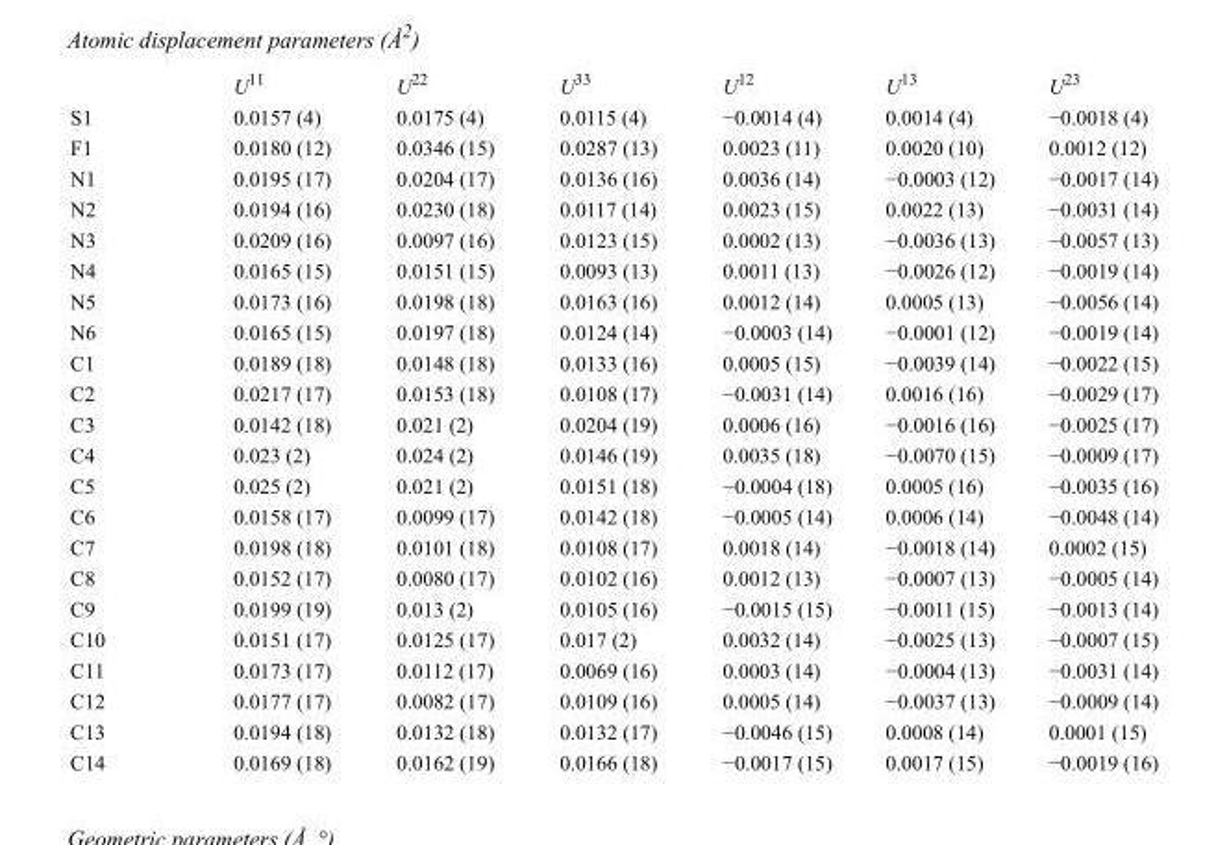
<table><thead><tr><td></td><td>U<sup>11</sup></td><td>U<sup>22</sup></td><td>U<sup>33</sup></td><td>U<sup>12</sup></td><td>U<sup>13</sup></td><td>U<sup>23</sup></td></tr></thead><tbody><tr><td>S1</td><td>0.0157 (4)</td><td>0.0175 (4)</td><td>0.0115 (4)</td><td>−0.0014 (4)</td><td>0.0014 (4)</td><td>−0.0018 (4)</td></tr><tr><td>F1</td><td>0.0180 (12)</td><td>0.0346 (15)</td><td>0.0287 (13)</td><td>0.0023 (11)</td><td>0.0020 (10)</td><td>0.0012 (12)</td></tr><tr><td>N1</td><td>0.0195 (17)</td><td>0.0204 (17)</td><td>0.0136 (16)</td><td>0.0036 (14)</td><td>−0.0003 (12)</td><td>−0.0017 (14)</td></tr><tr><td>N2</td><td>0.0194 (16)</td><td>0.0230 (18)</td><td>0.0117 (14)</td><td>0.0023 (15)</td><td>0.0022 (13)</td><td>−0.0031 (14)</td></tr><tr><td>N3</td><td>0.0209 (16)</td><td>0.0097 (16)</td><td>0.0123 (15)</td><td>0.0002 (13)</td><td>−0.0036 (13)</td><td>−0.0057 (13)</td></tr><tr><td>N4</td><td>0.0165 (15)</td><td>0.0151 (15)</td><td>0.0093 (13)</td><td>0.0011 (13)</td><td>−0.0026 (12)</td><td>−0.0019 (14)</td></tr><tr><td>N5</td><td>0.0173 (16)</td><td>0.0198 (18)</td><td>0.0163 (16)</td><td>0.0012 (14)</td><td>0.0005 (13)</td><td>−0.0056 (14)</td></tr><tr><td>N6</td><td>0.0165 (15)</td><td>0.0197 (18)</td><td>0.0124 (14)</td><td>−0.0003 (14)</td><td>−0.0001 (12)</td><td>−0.0019 (14)</td></tr><tr><td>C1</td><td>0.0189 (18)</td><td>0.0148 (18)</td><td>0.0133 (16)</td><td>0.0005 (15)</td><td>−0.0039 (14)</td><td>−0.0022 (15)</td></tr><tr><td>C2</td><td>0.0217 (17)</td><td>0.0153 (18)</td><td>0.0108 (17)</td><td>−0.0031 (14)</td><td>0.0016 (16)</td><td>−0.0029 (17)</td></tr><tr><td>C3</td><td>0.0142 (18)</td><td>0.021 (2)</td><td>0.0204 (19)</td><td>0.0006 (16)</td><td>−0.0016 (16)</td><td>−0.0025 (17)</td></tr><tr><td>C4</td><td>0.023 (2)</td><td>0.024 (2)</td><td>0.0146 (19)</td><td>0.0035 (18)</td><td>−0.0070 (15)</td><td>−0.0009 (17)</td></tr><tr><td>C5</td><td>0.025 (2)</td><td>0.021 (2)</td><td>0.0151 (18)</td><td>−0.0004 (18)</td><td>0.0005 (16)</td><td>−0.0035 (16)</td></tr><tr><td>C6</td><td>0.0158 (17)</td><td>0.0099 (17)</td><td>0.0142 (18)</td><td>−0.0005 (14)</td><td>0.0006 (14)</td><td>−0.0048 (14)</td></tr><tr><td>C7</td><td>0.0198 (18)</td><td>0.0101 (18)</td><td>0.0108 (17)</td><td>0.0018 (14)</td><td>−0.0018 (14)</td><td>0.0002 (15)</td></tr><tr><td>C8</td><td>0.0152 (17)</td><td>0.0080 (17)</td><td>0.0102 (16)</td><td>0.0012 (13)</td><td>−0.0007 (13)</td><td>−0.0005 (14)</td></tr><tr><td>C9</td><td>0.0199 (19)</td><td>0.013 (2)</td><td>0.0105 (16)</td><td>−0.0015 (15)</td><td>−0.0011 (15)</td><td>−0.0013 (14)</td></tr><tr><td>C10</td><td>0.0151 (17)</td><td>0.0125 (17)</td><td>0.017 (2)</td><td>0.0032 (14)</td><td>−0.0025 (13)</td><td>−0.0007 (15)</td></tr><tr><td>C11</td><td>0.0173 (17)</td><td>0.0112 (17)</td><td>0.0069 (16)</td><td>0.0003 (14)</td><td>−0.0004 (13)</td><td>−0.0031 (14)</td></tr><tr><td>C12</td><td>0.0177 (17)</td><td>0.0082 (17)</td><td>0.0109 (16)</td><td>0.0005 (14)</td><td>−0.0037 (13)</td><td>−0.0009 (14)</td></tr><tr><td>C13</td><td>0.0194 (18)</td><td>0.0132 (18)</td><td>0.0132 (17)</td><td>−0.0046 (15)</td><td>0.0008 (14)</td><td>0.0001 (15)</td></tr><tr><td>C14</td><td>0.0169 (18)</td><td>0.0162 (19)</td><td>0.0166 (18)</td><td>−0.0017 (15)</td><td>0.0017 (15)</td><td>−0.0019 (16)</td></tr></tbody></table>